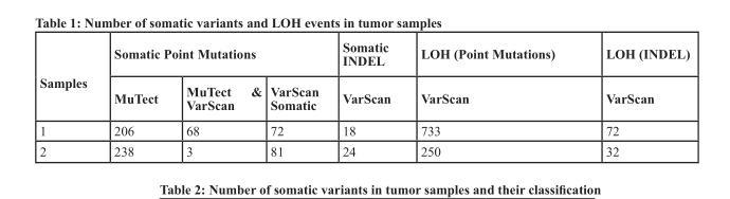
<table><thead><tr><td rowspan="2">Samples</td><td colspan="3">Somatic Point Mutations</td><td rowspan="2">Somatic INDEL VarScan</td><td rowspan="2">LOH (Point Mutations) VarScan</td><td rowspan="2">LOH (INDEL) VarScan</td></tr><tr><td>MuTect</td><td>MuTect &amp; VarScan</td><td>VarScan Somatic</td></tr></thead><tbody><tr><td>1</td><td>206</td><td>68</td><td>72</td><td>18</td><td>733</td><td>72</td></tr><tr><td>2</td><td>238</td><td>3</td><td>81</td><td>24</td><td>250</td><td>32</td></tr></tbody></table>